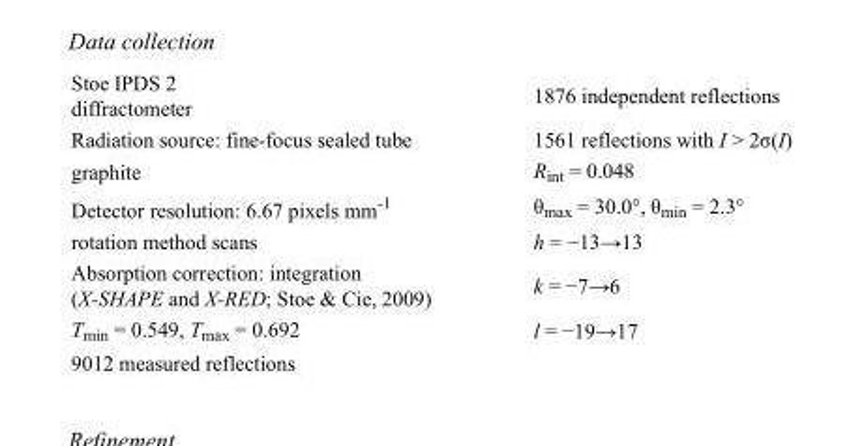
<table><tbody><tr><td>Stoe IPDS 2 diffractometer</td><td>1876 independent reflections</td></tr><tr><td>Radiation source: fine-focus sealed tube</td><td>1561 reflections with I &gt; 2σ(I)</td></tr><tr><td>graphite</td><td>R<sub>int</sub> = 0.048</td></tr><tr><td>Detector resolution: 6.67 pixels mm<sup>-1</sup></td><td>θ<sub>max</sub> = 30.0°, θ<sub>min</sub> = 2.3°</td></tr><tr><td>rotation method scans</td><td>h = −13→13</td></tr><tr><td>Absorption correction: integration (X-SHAPE and X-RED; Stoe &amp; Cie, 2009)</td><td>k = −7→6</td></tr><tr><td>T<sub>min</sub> = 0.549, T<sub>max</sub> = 0.692</td><td>l = −19→17</td></tr><tr><td>9012 measured reflections</td><td></td></tr></tbody></table>